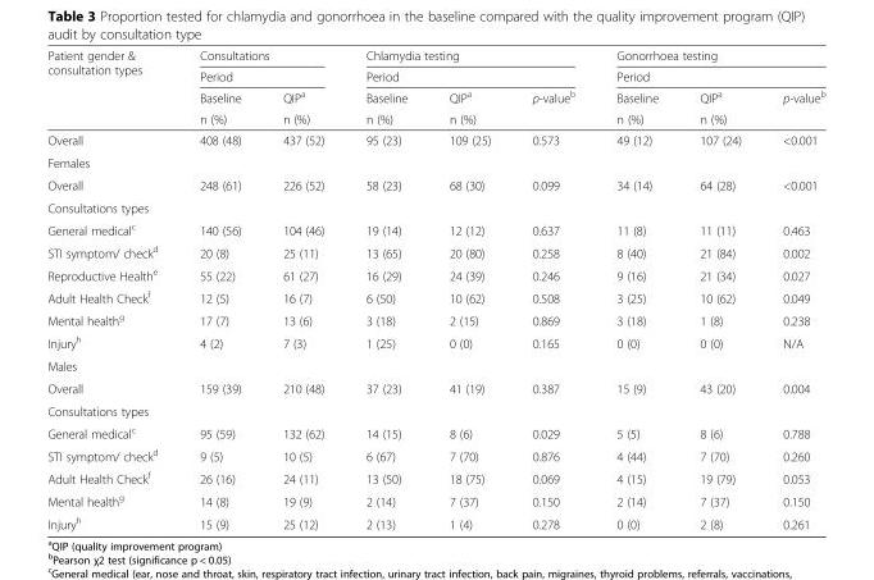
<table><thead><tr><td rowspan="4">Patient gender &amp; consultation types</td><td rowspan="2" colspan="2">Consultations Period</td><td rowspan="2" colspan="3">Chlamydia testing Period</td><td rowspan="2" colspan="3">Gonorrhoea testing Period</td></tr><tr></tr><tr><td rowspan="2">Baseline n (%)</td><td rowspan="2">QIP<sup>a</sup> n (%)</td><td rowspan="2">Baseline n (%)</td><td rowspan="2">QIP<sup>a</sup> n (%)</td><td rowspan="2">p-value<sup>b</sup></td><td rowspan="2">Baseline n (%)</td><td rowspan="2">QIP<sup>a</sup> n (%)</td><td rowspan="2">p-value<sup>b</sup></td></tr><tr></tr></thead><tbody><tr><td>Overall</td><td>408 (48)</td><td>437 (52)</td><td>95 (23)</td><td>109 (25)</td><td>0.573</td><td>49 (12)</td><td>107 (24)</td><td>&lt;0.001</td></tr><tr><td colspan="9">Females</td></tr><tr><td>Overall</td><td>248 (61)</td><td>226 (52)</td><td>58 (23)</td><td>68 (30)</td><td>0.099</td><td>34 (14)</td><td>64 (28)</td><td>&lt;0.001</td></tr><tr><td colspan="9">Consultations types</td></tr><tr><td>General medical<sup>c</sup></td><td>140 (56)</td><td>104 (46)</td><td>19 (14)</td><td>12 (12)</td><td>0.637</td><td>11 (8)</td><td>11 (11)</td><td>0.463</td></tr><tr><td>STI symptom/ check<sup>d</sup></td><td>20 (8)</td><td>25 (11)</td><td>13 (65)</td><td>20 (80)</td><td>0.258</td><td>8 (40)</td><td>21 (84)</td><td>0.002</td></tr><tr><td>Reproductive Health<sup>e</sup></td><td>55 (22)</td><td>61 (27)</td><td>16 (29)</td><td>24 (39)</td><td>0.246</td><td>9 (16)</td><td>21 (34)</td><td>0.027</td></tr><tr><td>Adult Health Check<sup>f</sup></td><td>12 (5)</td><td>16 (7)</td><td>6 (50)</td><td>10 (62)</td><td>0.508</td><td>3 (25)</td><td>10 (62)</td><td>0.049</td></tr><tr><td>Mental health<sup>g</sup></td><td>17 (7)</td><td>13 (6)</td><td>3 (18)</td><td>2 (15)</td><td>0.869</td><td>3 (18)</td><td>1 (8)</td><td>0.238</td></tr><tr><td>Injury<sup>h</sup></td><td>4 (2)</td><td>7 (3)</td><td>1 (25)</td><td>0 (0)</td><td>0.165</td><td>0 (0)</td><td>0 (0)</td><td>N/A</td></tr><tr><td colspan="9">Males</td></tr><tr><td>Overall</td><td>159 (39)</td><td>210 (48)</td><td>37 (23)</td><td>41 (19)</td><td>0.387</td><td>15 (9)</td><td>43 (20)</td><td>0.004</td></tr><tr><td colspan="9">Consultations types</td></tr><tr><td>General medical<sup>c</sup></td><td>95 (59)</td><td>132 (62)</td><td>14 (15)</td><td>8 (6)</td><td>0.029</td><td>5 (5)</td><td>8 (6)</td><td>0.788</td></tr><tr><td>STI symptom/ check<sup>d</sup></td><td>9 (5)</td><td>10 (5)</td><td>6 (67)</td><td>7 (70)</td><td>0.876</td><td>4 (44)</td><td>7 (70)</td><td>0.260</td></tr><tr><td>Adult Health Check<sup>f</sup></td><td>26 (16)</td><td>24 (11)</td><td>13 (50)</td><td>18 (75)</td><td>0.069</td><td>4 (15)</td><td>19 (79)</td><td>0.053</td></tr><tr><td>Mental health<sup>g</sup></td><td>14 (8)</td><td>19 (9)</td><td>2 (14)</td><td>7 (37)</td><td>0.150</td><td>2 (14)</td><td>7 (37)</td><td>0.150</td></tr><tr><td>Injury<sup>h</sup></td><td>15 (9)</td><td>25 (12)</td><td>2 (13)</td><td>1 (4)</td><td>0.278</td><td>0 (0)</td><td>2 (8)</td><td>0.261</td></tr></tbody></table>